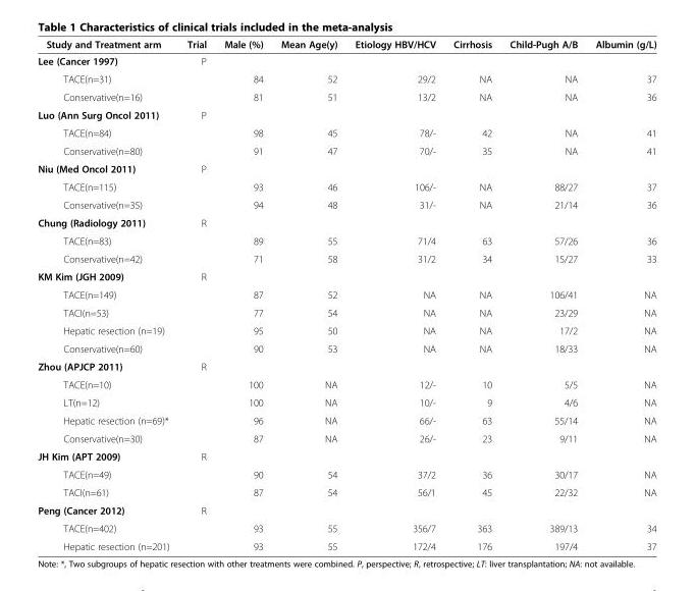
<table><thead><tr><td>Study and Treatment arm</td><td>Trial</td><td>Male (%)</td><td>Mean Age(y)</td><td>Etiology HBV/HCV</td><td>Cirrhosis</td><td>Child-Pugh A/B</td><td>Albumin (g/L)</td></tr></thead><tbody><tr><td>Lee (Cancer 1997)</td><td>P</td><td></td><td></td><td></td><td></td><td></td><td></td></tr><tr><td>TACE(n=31)</td><td></td><td>84</td><td>52</td><td>29/2</td><td>NA</td><td>NA</td><td>37</td></tr><tr><td>Conservative(n=16)</td><td></td><td>81</td><td>51</td><td>13/2</td><td>NA</td><td>NA</td><td>36</td></tr><tr><td>Luo (Ann Surg Oncol 2011)</td><td>P</td><td></td><td></td><td></td><td></td><td></td><td></td></tr><tr><td>TACE(n=84)</td><td></td><td>98</td><td>45</td><td>78/-</td><td>42</td><td>NA</td><td>41</td></tr><tr><td>Conservative(n=80)</td><td></td><td>91</td><td>47</td><td>70/-</td><td>35</td><td>NA</td><td>41</td></tr><tr><td>Niu (Med Oncol 2011)</td><td>P</td><td></td><td></td><td></td><td></td><td></td><td></td></tr><tr><td>TACE(n=115)</td><td></td><td>93</td><td>46</td><td>106/-</td><td>NA</td><td>88/27</td><td>37</td></tr><tr><td>Conservative(n=35)</td><td></td><td>94</td><td>48</td><td>31/-</td><td>NA</td><td>21/14</td><td>36</td></tr><tr><td>Chung (Radiology 2011)</td><td>R</td><td></td><td></td><td></td><td></td><td></td><td></td></tr><tr><td>TACE(n=83)</td><td></td><td>89</td><td>55</td><td>71/4</td><td>63</td><td>57/26</td><td>36</td></tr><tr><td>Conservative(n=42)</td><td></td><td>71</td><td>58</td><td>31/2</td><td>34</td><td>15/27</td><td>33</td></tr><tr><td>KM Kim (JGH 2009)</td><td>R</td><td></td><td></td><td></td><td></td><td></td><td></td></tr><tr><td>TACE(n=149)</td><td></td><td>87</td><td>52</td><td>NA</td><td>NA</td><td>106/41</td><td>NA</td></tr><tr><td>TACI(n=53)</td><td></td><td>77</td><td>54</td><td>NA</td><td>NA</td><td>23/29</td><td>NA</td></tr><tr><td>Hepatic resection (n=19)</td><td></td><td>95</td><td>50</td><td>NA</td><td>NA</td><td>17/2</td><td>NA</td></tr><tr><td>Conservative(n=60)</td><td></td><td>90</td><td>53</td><td>NA</td><td>NA</td><td>18/33</td><td>NA</td></tr><tr><td>Zhou (APJCP 2011)</td><td>R</td><td></td><td></td><td></td><td></td><td></td><td></td></tr><tr><td>TACE(n=10)</td><td></td><td>100</td><td>NA</td><td>12/-</td><td>10</td><td>5/5</td><td>NA</td></tr><tr><td>LT(n=12)</td><td></td><td>100</td><td>NA</td><td>10/-</td><td>9</td><td>4/6</td><td>NA</td></tr><tr><td>Hepatic resection (n=69)*</td><td></td><td>96</td><td>NA</td><td>66/-</td><td>63</td><td>55/14</td><td>NA</td></tr><tr><td>Conservative(n=30)</td><td></td><td>87</td><td>NA</td><td>26/-</td><td>23</td><td>9/11</td><td>NA</td></tr><tr><td>JH Kim (APT 2009)</td><td>R</td><td></td><td></td><td></td><td></td><td></td><td></td></tr><tr><td>TACE(n=49)</td><td></td><td>90</td><td>54</td><td>37/2</td><td>36</td><td>30/17</td><td>NA</td></tr><tr><td>TACI(n=61)</td><td></td><td>87</td><td>54</td><td>56/1</td><td>45</td><td>22/32</td><td>NA</td></tr><tr><td>Peng (Cancer 2012)</td><td>R</td><td></td><td></td><td></td><td></td><td></td><td></td></tr><tr><td>TACE(n=402)</td><td></td><td>93</td><td>55</td><td>356/7</td><td>363</td><td>389/13</td><td>34</td></tr><tr><td>Hepatic resection (n=201)</td><td></td><td>93</td><td>55</td><td>172/4</td><td>176</td><td>197/4</td><td>37</td></tr></tbody></table>